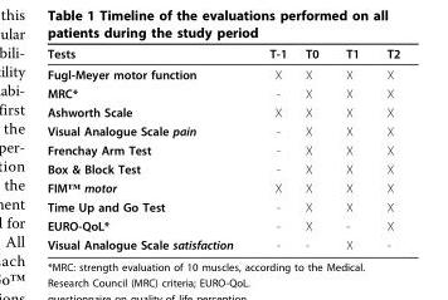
<table><thead><tr><td>Tests</td><td>T-1</td><td>T0</td><td>T1</td><td>T2</td></tr></thead><tbody><tr><td>Fugl-Meyer motor function</td><td>X</td><td>X</td><td>X</td><td>X</td></tr><tr><td>MRC*</td><td>-</td><td>X</td><td>X</td><td>X</td></tr><tr><td>Ashworth Scale</td><td>X</td><td>X</td><td>X</td><td>X</td></tr><tr><td>Visual Analogue Scale pain</td><td>-</td><td>X</td><td>X</td><td>X</td></tr><tr><td>Frenchay Arm Test</td><td>-</td><td>X</td><td>X</td><td>X</td></tr><tr><td>Box &amp; Block Test</td><td>-</td><td>X</td><td>X</td><td>X</td></tr><tr><td>FIM™ motor</td><td>X</td><td>X</td><td>X</td><td>X</td></tr><tr><td>Time Up and Go Test</td><td>-</td><td>X</td><td>X</td><td>X</td></tr><tr><td>EURO-QoL*</td><td>-</td><td>X</td><td>-</td><td>X</td></tr><tr><td>Visual Analogue Scale satisfaction</td><td>-</td><td>-</td><td>X</td><td>-</td></tr></tbody></table>